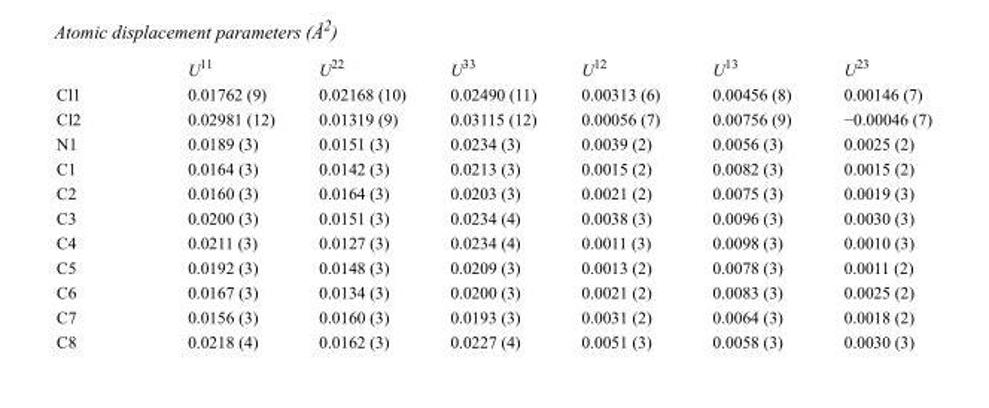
<table><thead><tr><td></td><td>U<sup>11</sup></td><td>U<sup>22</sup></td><td>U<sup>33</sup></td><td>U<sup>12</sup></td><td>U<sup>13</sup></td><td>U<sup>23</sup></td></tr></thead><tbody><tr><td>Cl1</td><td>0.01762 (9)</td><td>0.02168 (10)</td><td>0.02490 (11)</td><td>0.00313 (6)</td><td>0.00456 (8)</td><td>0.00146 (7)</td></tr><tr><td>Cl2</td><td>0.02981 (12)</td><td>0.01319 (9)</td><td>0.03115 (12)</td><td>0.00056 (7)</td><td>0.00756 (9)</td><td>−0.00046 (7)</td></tr><tr><td>N1</td><td>0.0189 (3)</td><td>0.0151 (3)</td><td>0.0234 (3)</td><td>0.0039 (2)</td><td>0.0056 (3)</td><td>0.0025 (2)</td></tr><tr><td>C1</td><td>0.0164 (3)</td><td>0.0142 (3)</td><td>0.0213 (3)</td><td>0.0015 (2)</td><td>0.0082 (3)</td><td>0.0015 (2)</td></tr><tr><td>C2</td><td>0.0160 (3)</td><td>0.0164 (3)</td><td>0.0203 (3)</td><td>0.0021 (2)</td><td>0.0075 (3)</td><td>0.0019 (3)</td></tr><tr><td>C3</td><td>0.0200 (3)</td><td>0.0151 (3)</td><td>0.0234 (4)</td><td>0.0038 (3)</td><td>0.0096 (3)</td><td>0.0030 (3)</td></tr><tr><td>C4</td><td>0.0211 (3)</td><td>0.0127 (3)</td><td>0.0234 (4)</td><td>0.0011 (3)</td><td>0.0098 (3)</td><td>0.0010 (3)</td></tr><tr><td>C5</td><td>0.0192 (3)</td><td>0.0148 (3)</td><td>0.0209 (3)</td><td>0.0013 (2)</td><td>0.0078 (3)</td><td>0.0011 (2)</td></tr><tr><td>C6</td><td>0.0167 (3)</td><td>0.0134 (3)</td><td>0.0200 (3)</td><td>0.0021 (2)</td><td>0.0083 (3)</td><td>0.0025 (2)</td></tr><tr><td>C7</td><td>0.0156 (3)</td><td>0.0160 (3)</td><td>0.0193 (3)</td><td>0.0031 (2)</td><td>0.0064 (3)</td><td>0.0018 (2)</td></tr><tr><td>C8</td><td>0.0218 (4)</td><td>0.0162 (3)</td><td>0.0227 (4)</td><td>0.0051 (3)</td><td>0.0058 (3)</td><td>0.0030 (3)</td></tr></tbody></table>